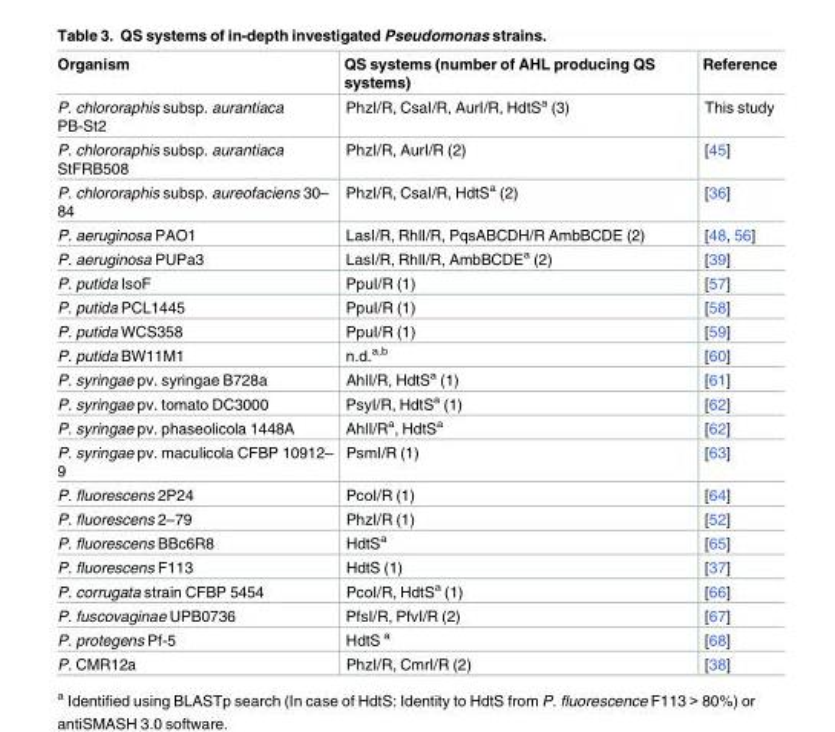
<table><thead><tr><td>Organism</td><td>QS systems (number of AHL producing QS systems)</td><td>Reference</td></tr></thead><tbody><tr><td>P. chlororaphis subsp. aurantiaca PB-St2</td><td>PhzI/R, CsaI/R, AurI/R, HdtS<sup>a</sup> (3)</td><td>This study</td></tr><tr><td>P. chlororaphis subsp. aurantiaca StFRB508</td><td>PhzI/R, AurI/R (2)</td><td>[45]</td></tr><tr><td>P. chlororaphis subsp. aureofaciens 30– 84</td><td>PhzI/R, CsaI/R, HdtS<sup>a</sup> (2)</td><td>[36]</td></tr><tr><td>P. aeruginosa PAO1</td><td>LasI/R, RhlI/R, PqsABCDH/R AmbBCDE (2)</td><td>[48, 56]</td></tr><tr><td>P. aeruginosa PUPa3</td><td>LasI/R, RhlI/R, AmbBCDE<sup>a</sup> (2)</td><td>[39]</td></tr><tr><td>P. putida IsoF</td><td>PpuI/R (1)</td><td>[57]</td></tr><tr><td>P. putida PCL1445</td><td>PpuI/R (1)</td><td>[58]</td></tr><tr><td>P. putida WCS358</td><td>PpuI/R (1)</td><td>[59]</td></tr><tr><td>P. putida BW11M1</td><td>n.d.<sup>a,b</sup></td><td>[60]</td></tr><tr><td>P. syringae pv. syringae B728a</td><td>AhlI/R, HdtS<sup>a</sup> (1)</td><td>[61]</td></tr><tr><td>P. syringae pv. tomato DC3000</td><td>PsyI/R, HdtS<sup>a</sup> (1)</td><td>[62]</td></tr><tr><td>P. syringae pv. phaseolicola 1448A</td><td>AhlI/R<sup>a</sup>, HdtS<sup>a</sup></td><td>[62]</td></tr><tr><td>P. syringae pv. maculicola CFBP 10912– 9</td><td>PsmI/R (1)</td><td>[63]</td></tr><tr><td>P. fluorescens 2P24</td><td>PcoI/R (1)</td><td>[64]</td></tr><tr><td>P. fluorescens 2–79</td><td>PhzI/R (1)</td><td>[52]</td></tr><tr><td>P. fluorescens BBc6R8</td><td>HdtS<sup>a</sup></td><td>[65]</td></tr><tr><td>P. fluorescens F113</td><td>HdtS (1)</td><td>[37]</td></tr><tr><td>P. corrugata strain CFBP 5454</td><td>PcoI/R, HdtS<sup>a</sup> (1)</td><td>[66]</td></tr><tr><td>P. fuscovaginae UPB0736</td><td>PfsI/R, PfvI/R (2)</td><td>[67]</td></tr><tr><td>P. protegens Pf-5</td><td>HdtS <sup>a</sup></td><td>[68]</td></tr><tr><td>P. CMR12a</td><td>PhzI/R, CmrI/R (2)</td><td>[38]</td></tr></tbody></table>